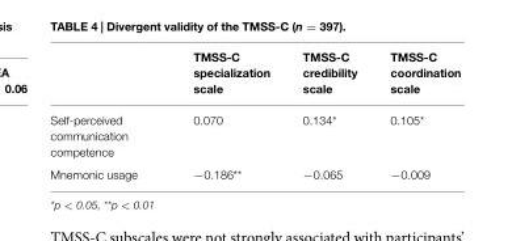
<table><thead><tr><td></td><td>TMSS-C specialization scale</td><td>TMSS-C credibility scale</td><td>TMSS-C coordination scale</td></tr></thead><tbody><tr><td>Self-perceived communication competence</td><td>0.070</td><td>0.134*</td><td>0.105*</td></tr><tr><td>Mnemonic usage</td><td>−0.186**</td><td>−0.065</td><td>−0.009</td></tr></tbody></table>